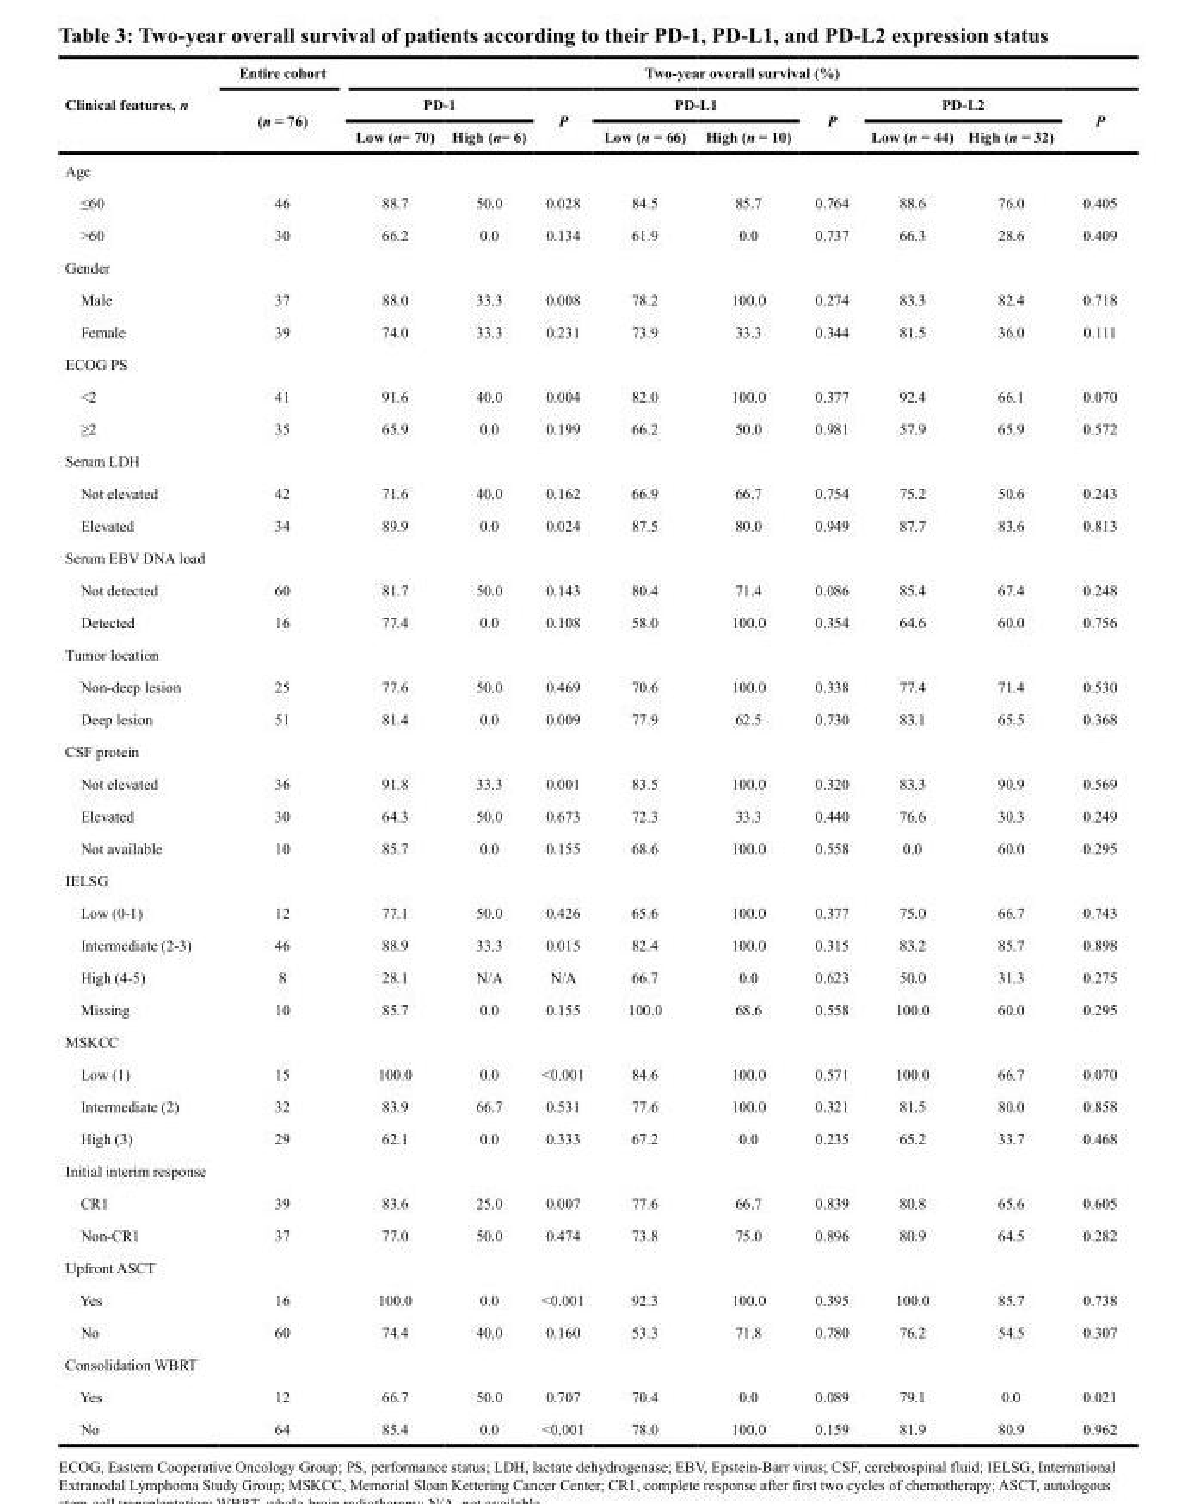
<table><thead><tr><td rowspan="3">Clinical features, n</td><td rowspan="3">Entire cohort (n = 76)</td><td colspan="9">Two-year overall survival (%)</td></tr><tr><td colspan="2">PD-1</td><td rowspan="2">P</td><td colspan="2">PD-L1</td><td rowspan="2">P</td><td colspan="2">PD-L2</td><td rowspan="2">P</td></tr><tr><td>Low (n= 70)</td><td>High (n= 6)</td><td>Low (n = 66)</td><td>High (n = 10)</td><td>Low (n = 44)</td><td>High (n = 32)</td></tr></thead><tbody><tr><td colspan="11">Age</td></tr><tr><td>≤60</td><td>46</td><td>88.7</td><td>50.0</td><td>0.028</td><td>84.5</td><td>85.7</td><td>0.764</td><td>88.6</td><td>76.0</td><td>0.405</td></tr><tr><td>&gt;60</td><td>30</td><td>66.2</td><td>0.0</td><td>0.134</td><td>61.9</td><td>0.0</td><td>0.737</td><td>66.3</td><td>28.6</td><td>0.409</td></tr><tr><td colspan="11">Gender</td></tr><tr><td>Male</td><td>37</td><td>88.0</td><td>33.3</td><td>0.008</td><td>78.2</td><td>100.0</td><td>0.274</td><td>83.3</td><td>82.4</td><td>0.718</td></tr><tr><td>Female</td><td>39</td><td>74.0</td><td>33.3</td><td>0.231</td><td>73.9</td><td>33.3</td><td>0.344</td><td>81.5</td><td>36.0</td><td>0.111</td></tr><tr><td colspan="11">ECOG PS</td></tr><tr><td>&lt;2</td><td>41</td><td>91.6</td><td>40.0</td><td>0.004</td><td>82.0</td><td>100.0</td><td>0.377</td><td>92.4</td><td>66.1</td><td>0.070</td></tr><tr><td>≥2</td><td>35</td><td>65.9</td><td>0.0</td><td>0.199</td><td>66.2</td><td>50.0</td><td>0.981</td><td>57.9</td><td>65.9</td><td>0.572</td></tr><tr><td colspan="11">Serum LDH</td></tr><tr><td>Not elevated</td><td>42</td><td>71.6</td><td>40.0</td><td>0.162</td><td>66.9</td><td>66.7</td><td>0.754</td><td>75.2</td><td>50.6</td><td>0.243</td></tr><tr><td>Elevated</td><td>34</td><td>89.9</td><td>0.0</td><td>0.024</td><td>87.5</td><td>80.0</td><td>0.949</td><td>87.7</td><td>83.6</td><td>0.813</td></tr><tr><td colspan="11">Serum EBV DNA load</td></tr><tr><td>Not detected</td><td>60</td><td>81.7</td><td>50.0</td><td>0.143</td><td>80.4</td><td>71.4</td><td>0.086</td><td>85.4</td><td>67.4</td><td>0.248</td></tr><tr><td>Detected</td><td>16</td><td>77.4</td><td>0.0</td><td>0.108</td><td>58.0</td><td>100.0</td><td>0.354</td><td>64.6</td><td>60.0</td><td>0.756</td></tr><tr><td colspan="11">Tumor location</td></tr><tr><td>Non-deep lesion</td><td>25</td><td>77.6</td><td>50.0</td><td>0.469</td><td>70.6</td><td>100.0</td><td>0.338</td><td>77.4</td><td>71.4</td><td>0.530</td></tr><tr><td>Deep lesion</td><td>51</td><td>81.4</td><td>0.0</td><td>0.009</td><td>77.9</td><td>62.5</td><td>0.730</td><td>83.1</td><td>65.5</td><td>0.368</td></tr><tr><td colspan="11">CSF protein</td></tr><tr><td>Not elevated</td><td>36</td><td>91.8</td><td>33.3</td><td>0.001</td><td>83.5</td><td>100.0</td><td>0.320</td><td>83.3</td><td>90.9</td><td>0.569</td></tr><tr><td>Elevated</td><td>30</td><td>64.3</td><td>50.0</td><td>0.673</td><td>72.3</td><td>33.3</td><td>0.440</td><td>76.6</td><td>30.3</td><td>0.249</td></tr><tr><td>Not available</td><td>10</td><td>85.7</td><td>0.0</td><td>0.155</td><td>68.6</td><td>100.0</td><td>0.558</td><td>0.0</td><td>60.0</td><td>0.295</td></tr><tr><td colspan="11">IELSG</td></tr><tr><td>Low (0-1)</td><td>12</td><td>77.1</td><td>50.0</td><td>0.426</td><td>65.6</td><td>100.0</td><td>0.377</td><td>75.0</td><td>66.7</td><td>0.743</td></tr><tr><td>Intermediate (2-3)</td><td>46</td><td>88.9</td><td>33.3</td><td>0.015</td><td>82.4</td><td>100.0</td><td>0.315</td><td>83.2</td><td>85.7</td><td>0.898</td></tr><tr><td>High (4-5)</td><td>8</td><td>28.1</td><td>N/A</td><td>N/A</td><td>66.7</td><td>0.0</td><td>0.623</td><td>50.0</td><td>31.3</td><td>0.275</td></tr><tr><td>Missing</td><td>10</td><td>85.7</td><td>0.0</td><td>0.155</td><td>100.0</td><td>68.6</td><td>0.558</td><td>100.0</td><td>60.0</td><td>0.295</td></tr><tr><td colspan="11">MSKCC</td></tr><tr><td>Low (1)</td><td>15</td><td>100.0</td><td>0.0</td><td>&lt;0.001</td><td>84.6</td><td>100.0</td><td>0.571</td><td>100.0</td><td>66.7</td><td>0.070</td></tr><tr><td>Intermediate (2)</td><td>32</td><td>83.9</td><td>66.7</td><td>0.531</td><td>77.6</td><td>100.0</td><td>0.321</td><td>81.5</td><td>80.0</td><td>0.858</td></tr><tr><td>High (3)</td><td>29</td><td>62.1</td><td>0.0</td><td>0.333</td><td>67.2</td><td>0.0</td><td>0.235</td><td>65.2</td><td>33.7</td><td>0.468</td></tr><tr><td colspan="11">Initial interim response</td></tr><tr><td>CR1</td><td>39</td><td>83.6</td><td>25.0</td><td>0.007</td><td>77.6</td><td>66.7</td><td>0.839</td><td>80.8</td><td>65.6</td><td>0.605</td></tr><tr><td>Non-CR1</td><td>37</td><td>77.0</td><td>50.0</td><td>0.474</td><td>73.8</td><td>75.0</td><td>0.896</td><td>80.9</td><td>64.5</td><td>0.282</td></tr><tr><td colspan="11">Upfront ASCT</td></tr><tr><td>Yes</td><td>16</td><td>100.0</td><td>0.0</td><td>&lt;0.001</td><td>92.3</td><td>100.0</td><td>0.395</td><td>100.0</td><td>85.7</td><td>0.738</td></tr><tr><td>No</td><td>60</td><td>74.4</td><td>40.0</td><td>0.160</td><td>53.3</td><td>71.8</td><td>0.780</td><td>76.2</td><td>54.5</td><td>0.307</td></tr><tr><td colspan="11">Consolidation WBRT</td></tr><tr><td>Yes</td><td>12</td><td>66.7</td><td>50.0</td><td>0.707</td><td>70.4</td><td>0.0</td><td>0.089</td><td>79.1</td><td>0.0</td><td>0.021</td></tr><tr><td>No</td><td>64</td><td>85.4</td><td>0.0</td><td>&lt;0.001</td><td>78.0</td><td>100.0</td><td>0.159</td><td>81.9</td><td>80.9</td><td>0.962</td></tr></tbody></table>